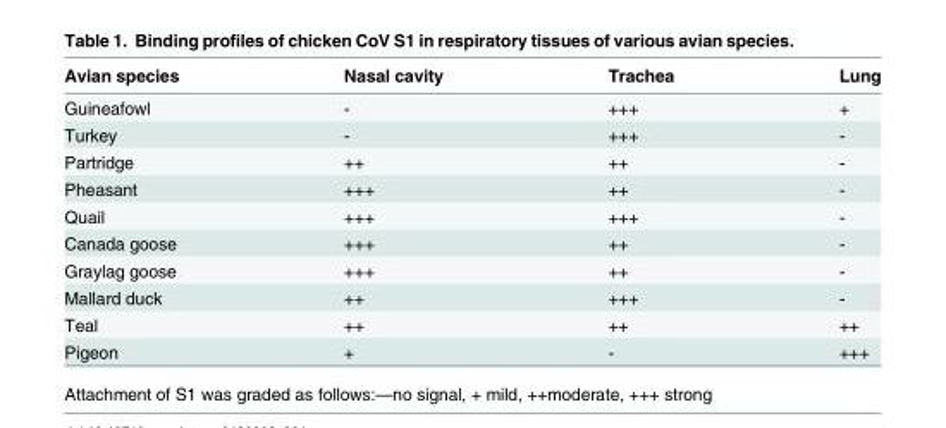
<table><thead><tr><td>Avian species</td><td>Nasal cavity</td><td>Trachea</td><td>Lung</td></tr></thead><tbody><tr><td>Guineafowl</td><td>-</td><td>+++</td><td>+</td></tr><tr><td>Turkey</td><td>-</td><td>+++</td><td>-</td></tr><tr><td>Partridge</td><td>++</td><td>++</td><td>-</td></tr><tr><td>Pheasant</td><td>+++</td><td>++</td><td>-</td></tr><tr><td>Quail</td><td>+++</td><td>+++</td><td>-</td></tr><tr><td>Canada goose</td><td>+++</td><td>++</td><td>-</td></tr><tr><td>Graylag goose</td><td>+++</td><td>++</td><td>-</td></tr><tr><td>Mallard duck</td><td>++</td><td>+++</td><td>-</td></tr><tr><td>Teal</td><td>++</td><td>++</td><td>++</td></tr><tr><td>Pigeon</td><td>+</td><td>-</td><td>+++</td></tr></tbody></table>